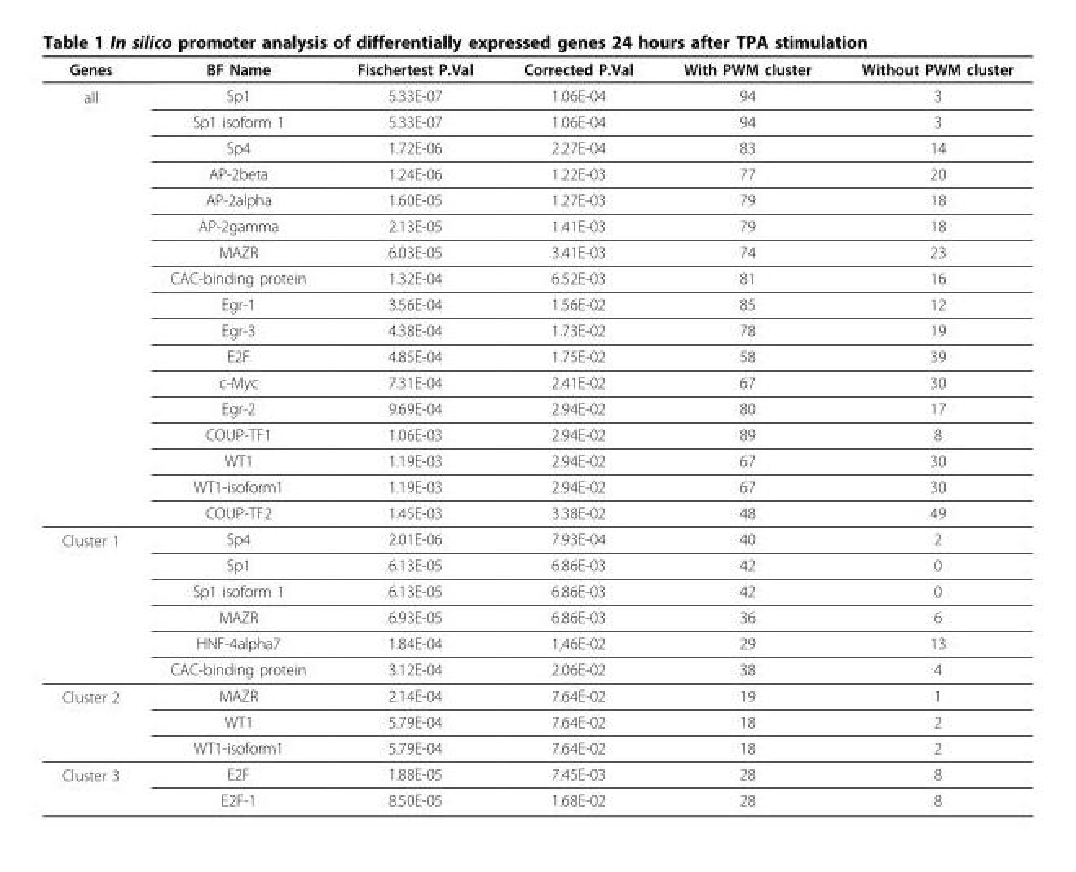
<table><thead><tr><td>Genes</td><td>BF Name</td><td>Fischertest P.Val</td><td>Corrected P.Val</td><td>With PWM cluster</td><td>Without PWM cluster</td></tr></thead><tbody><tr><td rowspan="17">all</td><td>Sp1</td><td>5.33E-07</td><td>1.06E-04</td><td>94</td><td>3</td></tr><tr><td>Sp1 isoform 1</td><td>5.33E-07</td><td>1.06E-04</td><td>94</td><td>3</td></tr><tr><td>Sp4</td><td>1.72E-06</td><td>2.27E-04</td><td>83</td><td>14</td></tr><tr><td>AP-2beta</td><td>1.24E-06</td><td>1.22E-03</td><td>77</td><td>20</td></tr><tr><td>AP-2alpha</td><td>1.60E-05</td><td>1.27E-03</td><td>79</td><td>18</td></tr><tr><td>AP-2gamma</td><td>2.13E-05</td><td>1.41E-03</td><td>79</td><td>18</td></tr><tr><td>MAZR</td><td>6.03E-05</td><td>3.41E-03</td><td>74</td><td>23</td></tr><tr><td>CAC-binding protein</td><td>1.32E-04</td><td>6.52E-03</td><td>81</td><td>16</td></tr><tr><td>Egr-1</td><td>3.56E-04</td><td>1.56E-02</td><td>85</td><td>12</td></tr><tr><td>Egr-3</td><td>4.38E-04</td><td>1.73E-02</td><td>78</td><td>19</td></tr><tr><td>E2F</td><td>4.85E-04</td><td>1.75E-02</td><td>58</td><td>39</td></tr><tr><td>c-Myc</td><td>7.31E-04</td><td>2.41E-02</td><td>67</td><td>30</td></tr><tr><td>Egr-2</td><td>9.69E-04</td><td>2.94E-02</td><td>80</td><td>17</td></tr><tr><td>COUP-TF1</td><td>1.06E-03</td><td>2.94E-02</td><td>89</td><td>8</td></tr><tr><td>WT1</td><td>1.19E-03</td><td>2.94E-02</td><td>67</td><td>30</td></tr><tr><td>WT1-isoform1</td><td>1.19E-03</td><td>2.94E-02</td><td>67</td><td>30</td></tr><tr><td>COUP-TF2</td><td>1.45E-03</td><td>3.38E-02</td><td>48</td><td>49</td></tr><tr><td rowspan="6">Cluster 1</td><td>Sp4</td><td>2.01E-06</td><td>7.93E-04</td><td>40</td><td>2</td></tr><tr><td>Sp1</td><td>6.13E-05</td><td>6.86E-03</td><td>42</td><td>0</td></tr><tr><td>Sp1 isoform 1</td><td>6.13E-05</td><td>6.86E-03</td><td>42</td><td>0</td></tr><tr><td>MAZR</td><td>6.93E-05</td><td>6.86E-03</td><td>36</td><td>6</td></tr><tr><td>HNF-4alpha7</td><td>1.84E-04</td><td>1,46E-02</td><td>29</td><td>13</td></tr><tr><td>CAC-binding protein</td><td>3.12E-04</td><td>2.06E-02</td><td>38</td><td>4</td></tr><tr><td rowspan="3">Cluster 2</td><td>MAZR</td><td>2.14E-04</td><td>7.64E-02</td><td>19</td><td>1</td></tr><tr><td>WT1</td><td>5.79E-04</td><td>7.64E-02</td><td>18</td><td>2</td></tr><tr><td>WT1-isoform1</td><td>5.79E-04</td><td>7.64E-02</td><td>18</td><td>2</td></tr><tr><td rowspan="2">Cluster 3</td><td>E2F</td><td>1.88E-05</td><td>7.45E-03</td><td>28</td><td>8</td></tr><tr><td>E2F-1</td><td>8.50E-05</td><td>1.68E-02</td><td>28</td><td>8</td></tr></tbody></table>